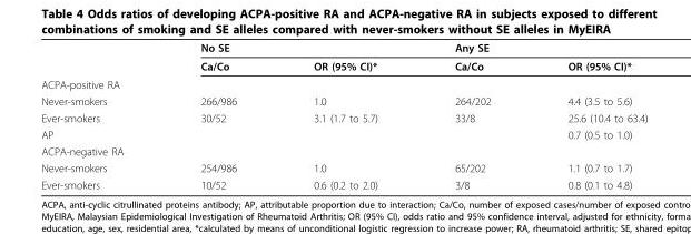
<table><thead><tr><td rowspan="2"></td><td colspan="2">No SE</td><td colspan="2">Any SE</td></tr><tr><td>Ca/Co</td><td>OR (95% CI)*</td><td>Ca/Co</td><td>OR (95% CI)*</td></tr></thead><tbody><tr><td colspan="5">ACPA-positive RA</td></tr><tr><td>Never-smokers</td><td>266/986</td><td>1.0</td><td>264/202</td><td>4.4 (3.5 to 5.6)</td></tr><tr><td>Ever-smokers</td><td>30/52</td><td>3.1 (1.7 to 5.7)</td><td>33/8</td><td>25.6 (10.4 to 63.4)</td></tr><tr><td>AP</td><td></td><td></td><td></td><td>0.7 (0.5 to 1.0)</td></tr><tr><td colspan="5">ACPA-negative RA</td></tr><tr><td>Never-smokers</td><td>254/986</td><td>1.0</td><td>65/202</td><td>1.1 (0.7 to 1.7)</td></tr><tr><td>Ever-smokers</td><td>10/52</td><td>0.6 (0.2 to 2.0)</td><td>3/8</td><td>0.8 (0.1 to 4.8)</td></tr></tbody></table>